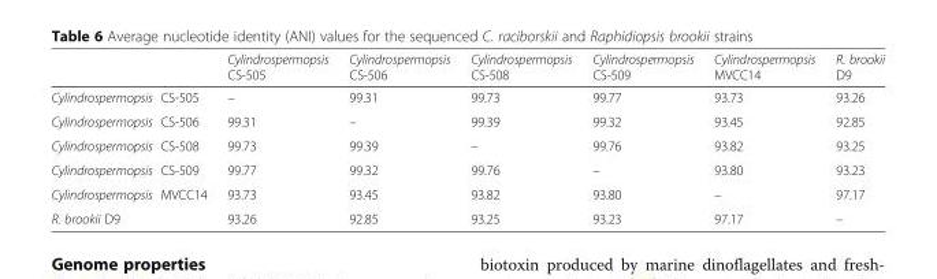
<table><thead><tr><td></td><td>Cylindrospermopsis CS-505</td><td>Cylindrospermopsis CS-506</td><td>Cylindrospermopsis CS-508</td><td>Cylindrospermopsis CS-509</td><td>Cylindrospermopsis MVCC14</td><td>R. brookii D9</td></tr></thead><tbody><tr><td>Cylindrospermopsis CS-505</td><td>–</td><td>99.31</td><td>99.73</td><td>99.77</td><td>93.73</td><td>93.26</td></tr><tr><td>Cylindrospermopsis CS-506</td><td>99.31</td><td>–</td><td>99.39</td><td>99.32</td><td>93.45</td><td>92.85</td></tr><tr><td>Cylindrospermopsis CS-508</td><td>99.73</td><td>99.39</td><td>–</td><td>99.76</td><td>93.82</td><td>93.25</td></tr><tr><td>Cylindrospermopsis CS-509</td><td>99.77</td><td>99.32</td><td>99.76</td><td>–</td><td>93.80</td><td>93.23</td></tr><tr><td>Cylindrospermopsis MVCC14</td><td>93.73</td><td>93.45</td><td>93.82</td><td>93.80</td><td>–</td><td>97.17</td></tr><tr><td>R. brookii D9</td><td>93.26</td><td>92.85</td><td>93.25</td><td>93.23</td><td>97.17</td><td>–</td></tr></tbody></table>